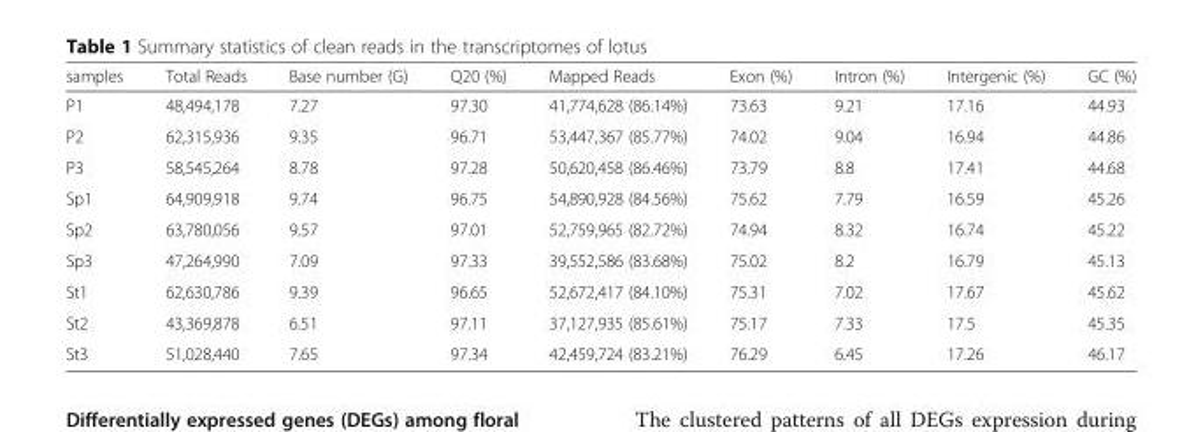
<table><thead><tr><td>samples</td><td>Total Reads</td><td>Base number (G)</td><td>Q20 (%)</td><td>Mapped Reads</td><td>Exon (%)</td><td>Intron (%)</td><td>Intergenic (%)</td><td>GC (%)</td></tr></thead><tbody><tr><td>P1</td><td>48,494,178</td><td>7.27</td><td>97.30</td><td>41,774,628 (86.14%)</td><td>73.63</td><td>9.21</td><td>17.16</td><td>44.93</td></tr><tr><td>P2</td><td>62,315,936</td><td>9.35</td><td>96.71</td><td>53,447,367 (85.77%)</td><td>74.02</td><td>9.04</td><td>16.94</td><td>44.86</td></tr><tr><td>P3</td><td>58,545,264</td><td>8.78</td><td>97.28</td><td>50,620,458 (86.46%)</td><td>73.79</td><td>8.8</td><td>17.41</td><td>44.68</td></tr><tr><td>Sp1</td><td>64,909,918</td><td>9.74</td><td>96.75</td><td>54,890,928 (84.56%)</td><td>75.62</td><td>7.79</td><td>16.59</td><td>45.26</td></tr><tr><td>Sp2</td><td>63,780,056</td><td>9.57</td><td>97.01</td><td>52,759,965 (82.72%)</td><td>74.94</td><td>8.32</td><td>16.74</td><td>45.22</td></tr><tr><td>Sp3</td><td>47,264,990</td><td>7.09</td><td>97.33</td><td>39,552,586 (83.68%)</td><td>75.02</td><td>8.2</td><td>16.79</td><td>45.13</td></tr><tr><td>St1</td><td>62,630,786</td><td>9.39</td><td>96.65</td><td>52,672,417 (84.10%)</td><td>75.31</td><td>7.02</td><td>17.67</td><td>45.62</td></tr><tr><td>St2</td><td>43,369,878</td><td>6.51</td><td>97.11</td><td>37,127,935 (85.61%)</td><td>75.17</td><td>7.33</td><td>17.5</td><td>45.35</td></tr><tr><td>St3</td><td>51,028,440</td><td>7.65</td><td>97.34</td><td>42,459,724 (83.21%)</td><td>76.29</td><td>6.45</td><td>17.26</td><td>46.17</td></tr></tbody></table>